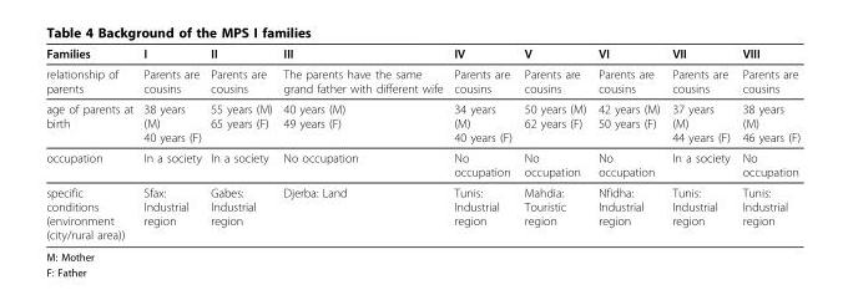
<table><thead><tr><td>Families</td><td>I</td><td>II</td><td>III</td><td>IV</td><td>V</td><td>VI</td><td>VII</td><td>VIII</td></tr></thead><tbody><tr><td>relationship of parents</td><td>Parents are cousins</td><td>Parents are cousins</td><td>The parents have the same grand father with different wife</td><td>Parents are cousins</td><td>Parents are cousins</td><td>Parents are cousins</td><td>Parents are cousins</td><td>Parents are cousins</td></tr><tr><td>age of parents at birth</td><td>38 years (M) 40 years (F)</td><td>55 years (M) 65 years (F)</td><td>40 years (M) 49 years (F)</td><td>34 years (M) 40 years (F)</td><td>50 years (M) 62 years (F)</td><td>42 years (M) 50 years (F)</td><td>37 years (M) 44 years (F)</td><td>38 years (M) 46 years (F)</td></tr><tr><td>occupation</td><td>In a society</td><td>In a society</td><td>No occupation</td><td>No occupation</td><td>No occupation</td><td>No occupation</td><td>In a society</td><td>No occupation</td></tr><tr><td>specific conditions (environment (city/rural area))</td><td>Sfax: Industrial region</td><td>Gabes: Industrial region</td><td>Djerba: Land</td><td>Tunis: Industrial region</td><td>Mahdia: Touristic region</td><td>Nfidha: Industrial region</td><td>Tunis: Industrial region</td><td>Tunis: Industrial region</td></tr></tbody></table>